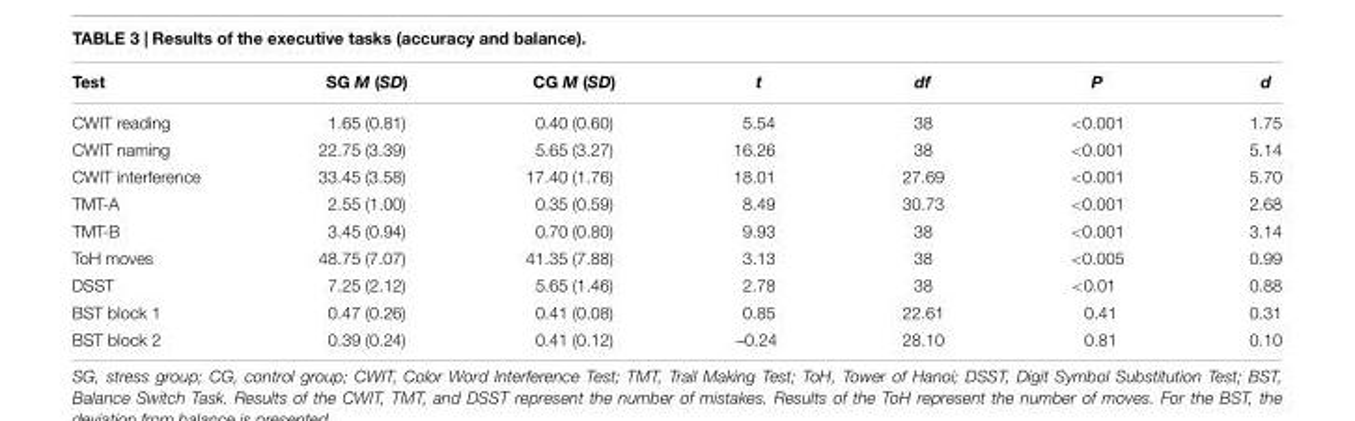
<table><thead><tr><td>Test</td><td>SG M (SD)</td><td>CG M (SD)</td><td>t</td><td>df</td><td>P</td><td>d</td></tr></thead><tbody><tr><td>CWIT reading</td><td>1.65 (0.81)</td><td>0.40 (0.60)</td><td>5.54</td><td>38</td><td>&lt;0.001</td><td>1.75</td></tr><tr><td>CWIT naming</td><td>22.75 (3.39)</td><td>5.65 (3.27)</td><td>16.26</td><td>38</td><td>&lt;0.001</td><td>5.14</td></tr><tr><td>CWIT interference</td><td>33.45 (3.58)</td><td>17.40 (1.76)</td><td>18.01</td><td>27.69</td><td>&lt;0.001</td><td>5.70</td></tr><tr><td>TMT-A</td><td>2.55 (1.00)</td><td>0.35 (0.59)</td><td>8.49</td><td>30.73</td><td>&lt;0.001</td><td>2.68</td></tr><tr><td>TMT-B</td><td>3.45 (0.94)</td><td>0.70 (0.80)</td><td>9.93</td><td>38</td><td>&lt;0.001</td><td>3.14</td></tr><tr><td>ToH moves</td><td>48.75 (7.07)</td><td>41.35 (7.88)</td><td>3.13</td><td>38</td><td>&lt;0.005</td><td>0.99</td></tr><tr><td>DSST</td><td>7.25 (2.12)</td><td>5.65 (1.46)</td><td>2.78</td><td>38</td><td>&lt;0.01</td><td>0.88</td></tr><tr><td>BST block 1</td><td>0.47 (0.26)</td><td>0.41 (0.08)</td><td>0.85</td><td>22.61</td><td>0.41</td><td>0.31</td></tr><tr><td>BST block 2</td><td>0.39 (0.24)</td><td>0.41 (0.12)</td><td>–0.24</td><td>28.10</td><td>0.81</td><td>0.10</td></tr></tbody></table>